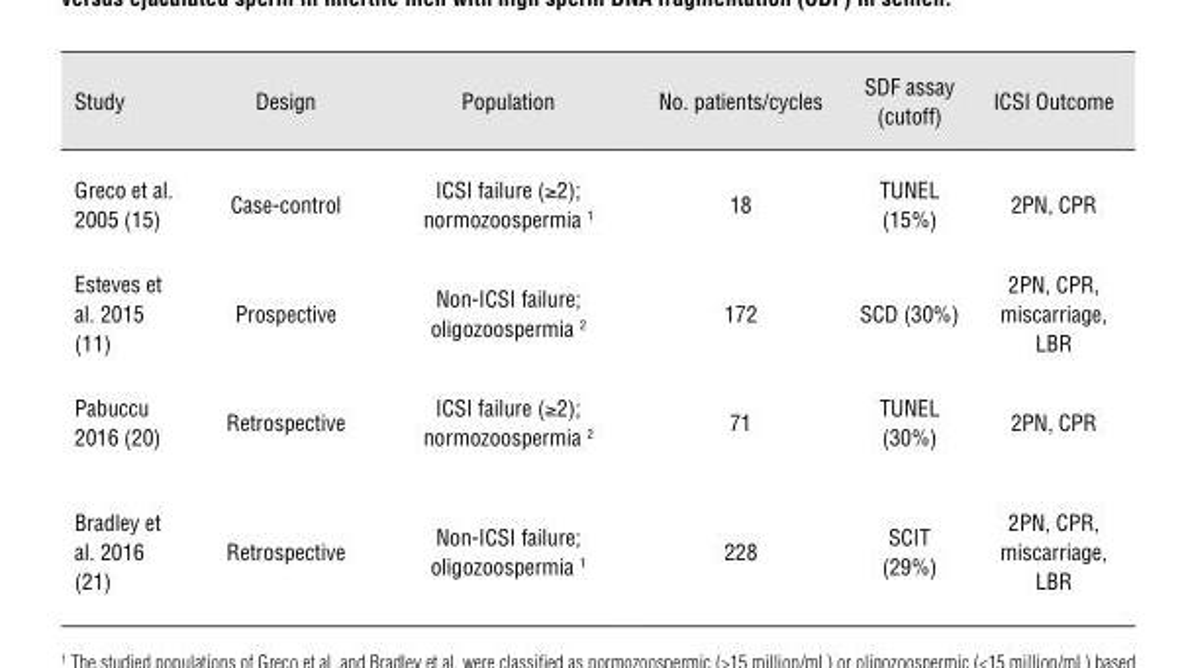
<table><thead><tr><td>Study</td><td>Design</td><td>Population</td><td>No. patients/cycles</td><td>SDF assay (cutoff)</td><td>ICSI Outcome</td></tr></thead><tbody><tr><td>Greco et al. 2005 (15)</td><td>Case-control</td><td>ICSI failure (≥2); normozoospermia 1</td><td>18</td><td>TUNEL (15%)</td><td>2PN, CPR</td></tr><tr><td>Esteves et al. 2015 (11)</td><td>Prospective</td><td>Non-ICSI failure; oligozoospermia 2</td><td>172</td><td>SCD (30%)</td><td>2PN, CPR, miscarriage, LBR</td></tr><tr><td>Pabuccu 2016 (20)</td><td>Retrospective</td><td>ICSI failure (≥2); normozoospermia 2</td><td>71</td><td>TUNEL (30%)</td><td>2PN, CPR</td></tr><tr><td>Bradley et al. 2016 (21)</td><td>Retrospective</td><td>Non-ICSI failure; oligozoospermia 1</td><td>228</td><td>SCIT (29%)</td><td>2PN, CPR, miscarriage, LBR</td></tr></tbody></table>